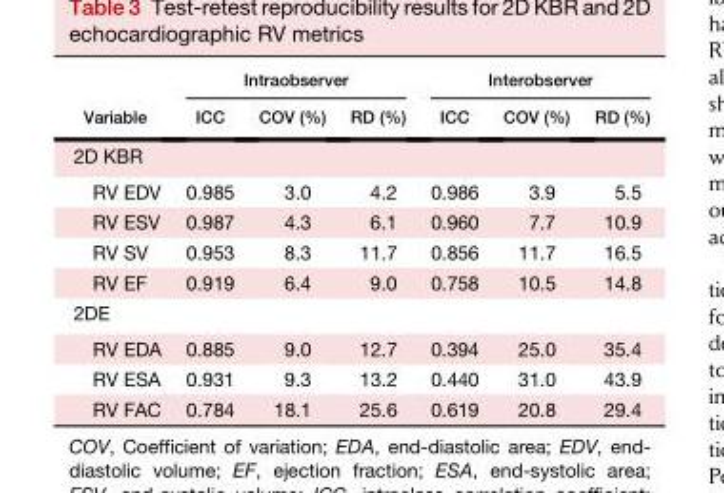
<table><thead><tr><td rowspan="2">Variable</td><td colspan="3">Intraobserver</td><td colspan="3">Interobserver</td></tr><tr><td>ICC</td><td>COV (%)</td><td>RD (%)</td><td>ICC</td><td>COV (%)</td><td>RD (%)</td></tr></thead><tbody><tr><td colspan="7">2D KBR</td></tr><tr><td>RV EDV</td><td>0.985</td><td>3.0</td><td>4.2</td><td>0.986</td><td>3.9</td><td>5.5</td></tr><tr><td>RV ESV</td><td>0.987</td><td>4.3</td><td>6.1</td><td>0.960</td><td>7.7</td><td>10.9</td></tr><tr><td>RV SV</td><td>0.953</td><td>8.3</td><td>11.7</td><td>0.856</td><td>11.7</td><td>16.5</td></tr><tr><td>RV EF</td><td>0.919</td><td>6.4</td><td>9.0</td><td>0.758</td><td>10.5</td><td>14.8</td></tr><tr><td colspan="7">2DE</td></tr><tr><td>RV EDA</td><td>0.885</td><td>9.0</td><td>12.7</td><td>0.394</td><td>25.0</td><td>35.4</td></tr><tr><td>RV ESA</td><td>0.931</td><td>9.3</td><td>13.2</td><td>0.440</td><td>31.0</td><td>43.9</td></tr><tr><td>RV FAC</td><td>0.784</td><td>18.1</td><td>25.6</td><td>0.619</td><td>20.8</td><td>29.4</td></tr></tbody></table>